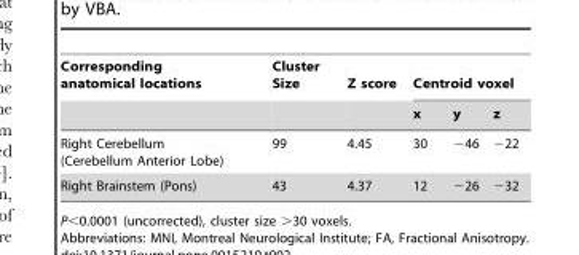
<table><thead><tr><td rowspan="2">Corresponding anatomical locations</td><td rowspan="2">Cluster Size</td><td rowspan="2">Z score</td><td colspan="3">Centroid voxel</td></tr><tr><td>x</td><td>y</td><td>z</td></tr></thead><tbody><tr><td>Right Cerebellum (Cerebellum Anterior Lobe)</td><td>99</td><td>4.45</td><td>30</td><td>−46</td><td>−22</td></tr><tr><td>Right Brainstem (Pons)</td><td>43</td><td>4.37</td><td>12</td><td>−26</td><td>−32</td></tr></tbody></table>